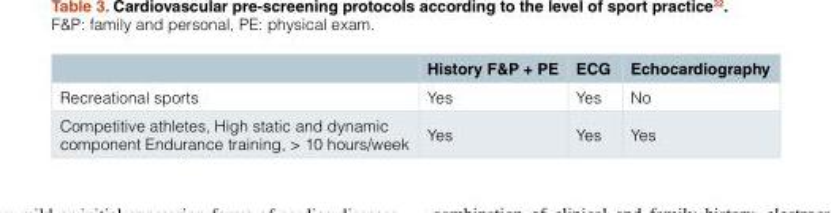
<table><thead><tr><td></td><td>History F&amp;P + PE</td><td>ECG</td><td>Echocardiography</td></tr></thead><tbody><tr><td>Recreational sports</td><td>Yes</td><td>Yes</td><td>No</td></tr><tr><td>Competitive athletes, High static and dynamic component Endurance training, &gt; 10 hours/week</td><td>Yes</td><td>Yes</td><td>Yes</td></tr></tbody></table>